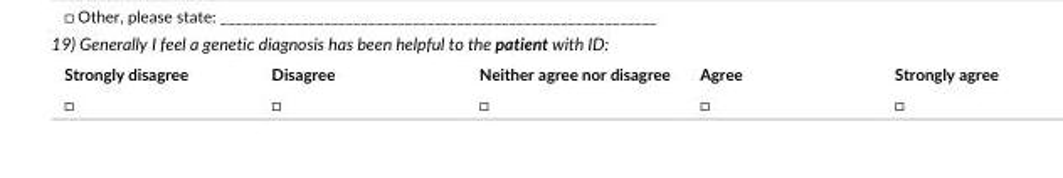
<table><tbody><tr><td>Strongly disagree</td><td>Disagree</td><td>Neither agree nor disagree</td><td>Agree</td><td>Strongly agree</td></tr><tr><td>□</td><td>□</td><td>□</td><td>□</td><td>□</td></tr></tbody></table>